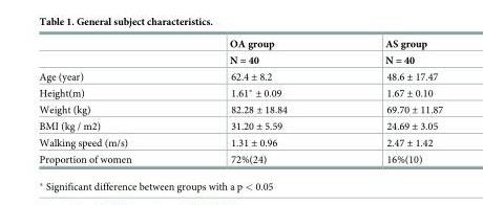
<table><thead><tr><td rowspan="2"></td><td rowspan="2">OA group N = 40</td><td rowspan="2">AS group N = 40</td></tr><tr></tr></thead><tbody><tr><td>Age (year)</td><td>62.4 ± 8.2</td><td>48.6 ± 17.47</td></tr><tr><td>Height(m)</td><td>1.61* ± 0.09</td><td>1.67 ± 0.10</td></tr><tr><td>Weight (kg)</td><td>82.28 ± 18.84</td><td>69.70 ± 11.87</td></tr><tr><td>BMI (kg / m2)</td><td>31.20 ± 5.59</td><td>24.69 ± 3.05</td></tr><tr><td>Walking speed (m/s)</td><td>1.31 ± 0.96</td><td>2.47 ± 1.42</td></tr><tr><td>Proportion of women</td><td>72%(24)</td><td>16%(10)</td></tr></tbody></table>